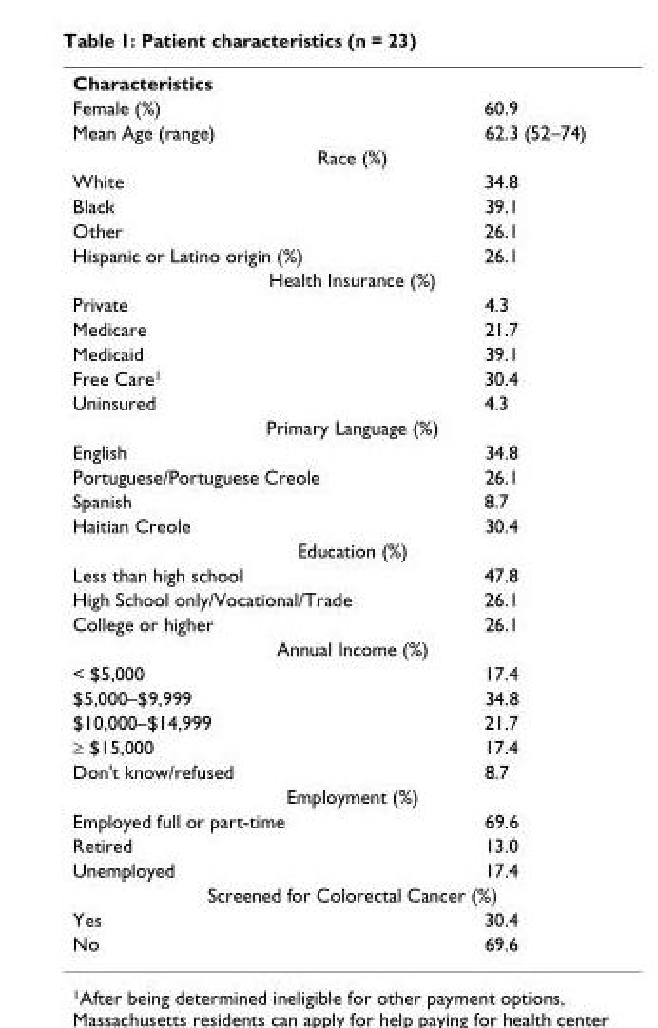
<table><tbody><tr><td colspan="2">Characteristics</td></tr><tr><td>Female (%)</td><td>60.9</td></tr><tr><td>Mean Age (range)</td><td>62.3 (52–74)</td></tr><tr><td colspan="2">Race (%)</td></tr><tr><td>White</td><td>34.8</td></tr><tr><td>Black</td><td>39.1</td></tr><tr><td>Other</td><td>26.1</td></tr><tr><td>Hispanic or Latino origin (%)</td><td>26.1</td></tr><tr><td colspan="2">Health Insurance (%)</td></tr><tr><td>Private</td><td>4.3</td></tr><tr><td>Medicare</td><td>21.7</td></tr><tr><td>Medicaid</td><td>39.1</td></tr><tr><td>Free Care<sup>1</sup></td><td>30.4</td></tr><tr><td>Uninsured</td><td>4.3</td></tr><tr><td colspan="2">Primary Language (%)</td></tr><tr><td>English</td><td>34.8</td></tr><tr><td>Portuguese/Portuguese Creole</td><td>26.1</td></tr><tr><td>Spanish</td><td>8.7</td></tr><tr><td>Haitian Creole</td><td>30.4</td></tr><tr><td colspan="2">Education (%)</td></tr><tr><td>Less than high school</td><td>47.8</td></tr><tr><td>High School only/Vocational/Trade</td><td>26.1</td></tr><tr><td>College or higher</td><td>26.1</td></tr><tr><td colspan="2">Annual Income (%)</td></tr><tr><td>&lt; $5,000</td><td>17.4</td></tr><tr><td>$5,000–$9,999</td><td>34.8</td></tr><tr><td>$10,000–$14,999</td><td>21.7</td></tr><tr><td>≥ $15,000</td><td>17.4</td></tr><tr><td>Don&#x27;t know/refused</td><td>8.7</td></tr><tr><td colspan="2">Employment (%)</td></tr><tr><td>Employed full or part-time</td><td>69.6</td></tr><tr><td>Retired</td><td>13.0</td></tr><tr><td>Unemployed</td><td>17.4</td></tr><tr><td colspan="2">Screened for Colorectal Cancer (%)</td></tr><tr><td>Yes</td><td>30.4</td></tr><tr><td>No</td><td>69.6</td></tr></tbody></table>